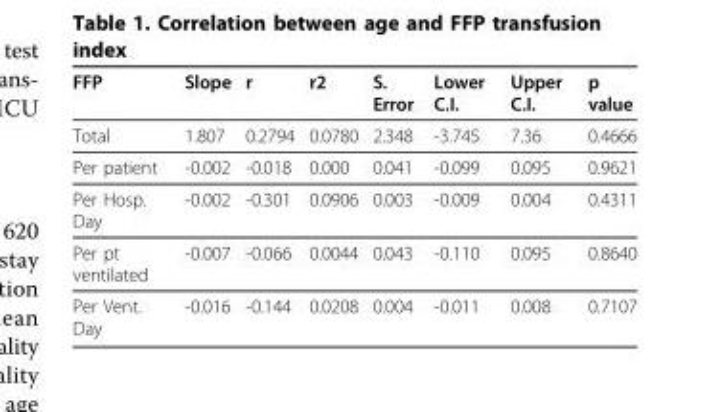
<table><thead><tr><td>FFP</td><td>Slope</td><td>r</td><td>r2</td><td>S. Error</td><td>Lower C.I.</td><td>Upper C.I.</td><td>p value</td></tr></thead><tbody><tr><td>Total</td><td>1.807</td><td>0.2794</td><td>0.0780</td><td>2.348</td><td>-3.745</td><td>7.36</td><td>0.4666</td></tr><tr><td>Per patient</td><td>-0.002</td><td>-0.018</td><td>0.000</td><td>0.041</td><td>-0.099</td><td>0.095</td><td>0.9621</td></tr><tr><td>Per Hosp. Day</td><td>-0.002</td><td>-0.301</td><td>0.0906</td><td>0.003</td><td>-0.009</td><td>0.004</td><td>0.4311</td></tr><tr><td>Per pt ventilated</td><td>-0.007</td><td>-0.066</td><td>0.0044</td><td>0.043</td><td>-0.110</td><td>0.095</td><td>0.8640</td></tr><tr><td>Per Vent. Day</td><td>-0.016</td><td>-0.144</td><td>0.0208</td><td>0.004</td><td>-0.011</td><td>0.008</td><td>0.7107</td></tr></tbody></table>